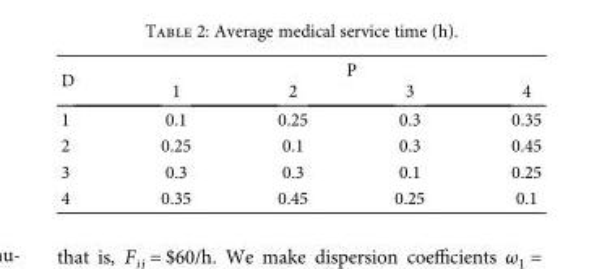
<table><thead><tr><td rowspan="2">D</td><td colspan="4">P</td></tr><tr><td>1</td><td>2</td><td>3</td><td>4</td></tr></thead><tbody><tr><td>1</td><td>0.1</td><td>0.25</td><td>0.3</td><td>0.35</td></tr><tr><td>2</td><td>0.25</td><td>0.1</td><td>0.3</td><td>0.45</td></tr><tr><td>3</td><td>0.3</td><td>0.3</td><td>0.1</td><td>0.25</td></tr><tr><td>4</td><td>0.35</td><td>0.45</td><td>0.25</td><td>0.1</td></tr></tbody></table>